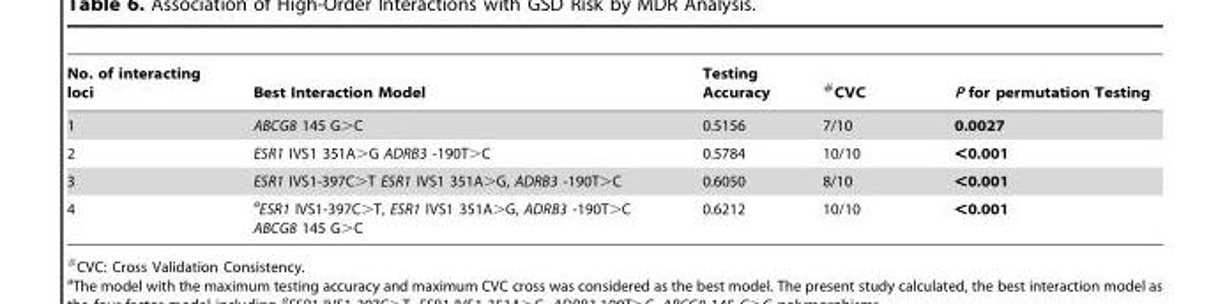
<table><thead><tr><td>No. of interacting loci</td><td>Best Interaction Model</td><td>Testing Accuracy</td><td>#CVC</td><td>P for permutation Testing</td></tr></thead><tbody><tr><td>1</td><td>ABCG8 145 G&gt;C</td><td>0.5156</td><td>7/10</td><td>0.0027</td></tr><tr><td>2</td><td>ESR1 IVS1 351A&gt;G ADRB3 -190T&gt;C</td><td>0.5784</td><td>10/10</td><td>&lt;0.001</td></tr><tr><td>3</td><td>ESR1 IVS1-397C&gt;T ESR1 IVS1 351A&gt;G, ADRB3 -190T&gt;C</td><td>0.6050</td><td>8/10</td><td>&lt;0.001</td></tr><tr><td>4</td><td>aESR1 IVS1-397C&gt;T, ESR1 IVS1 351A&gt;G, ADRB3 -190T&gt;C ABCG8 145 G&gt;C</td><td>0.6212</td><td>10/10</td><td>&lt;0.001</td></tr></tbody></table>